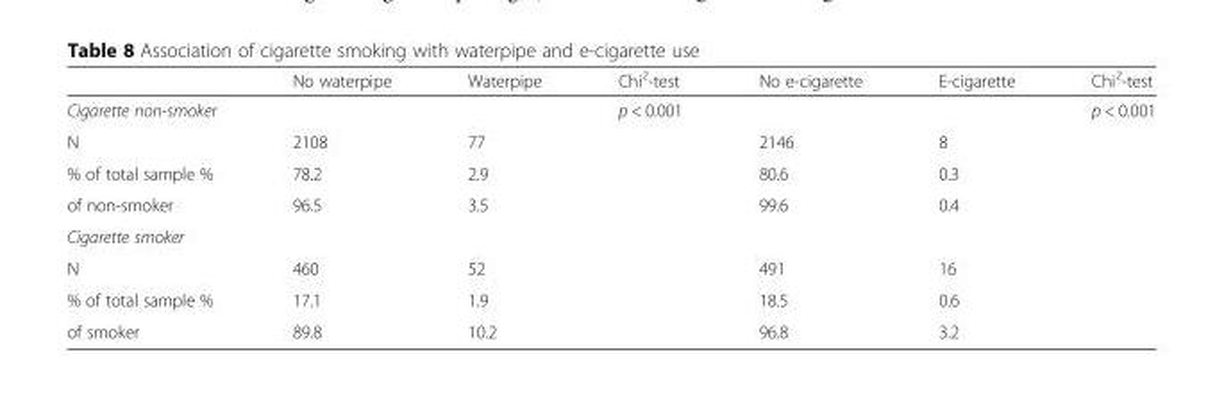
<table><thead><tr><td></td><td>No waterpipe</td><td>Waterpipe</td><td>Chi<sup>2</sup>-test</td><td>No e-cigarette</td><td>E-cigarette</td><td>Chi<sup>2</sup>-test</td></tr></thead><tbody><tr><td>Cigarette non-smoker</td><td></td><td></td><td>p &lt; 0.001</td><td></td><td></td><td>p &lt; 0.001</td></tr><tr><td>N</td><td>2108</td><td>77</td><td></td><td>2146</td><td>8</td><td></td></tr><tr><td>% of total sample %</td><td>78.2</td><td>2.9</td><td></td><td>80.6</td><td>0.3</td><td></td></tr><tr><td>of non-smoker</td><td>96.5</td><td>3.5</td><td></td><td>99.6</td><td>0.4</td><td></td></tr><tr><td colspan="7">Cigarette smoker</td></tr><tr><td>N</td><td>460</td><td>52</td><td></td><td>491</td><td>16</td><td></td></tr><tr><td>% of total sample %</td><td>17.1</td><td>1.9</td><td></td><td>18.5</td><td>0.6</td><td></td></tr><tr><td>of smoker</td><td>89.8</td><td>10.2</td><td></td><td>96.8</td><td>3.2</td><td></td></tr></tbody></table>